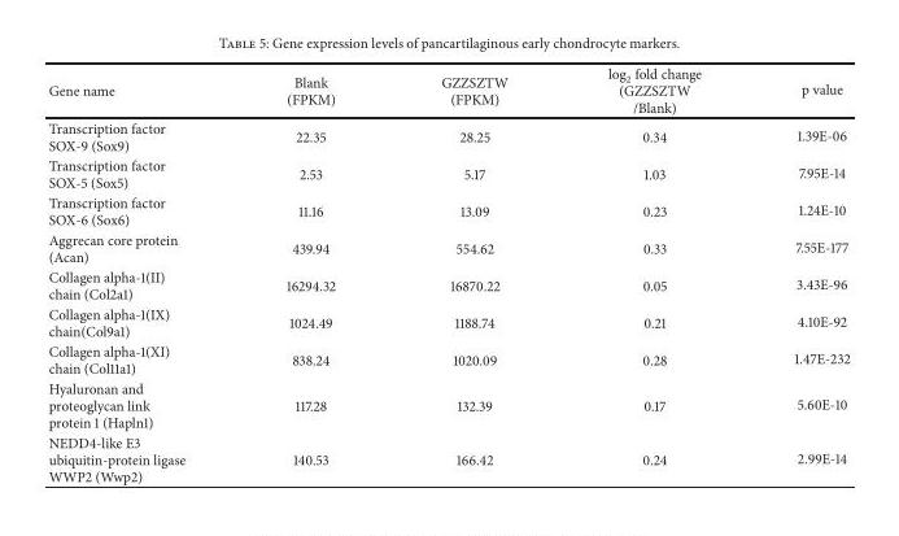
<table><thead><tr><td>Gene name</td><td>Blank (FPKM)</td><td>GZZSZTW (FPKM)</td><td>log<sub>2</sub> fold change (GZZSZTW /Blank)</td><td>p value</td></tr></thead><tbody><tr><td>Transcription factor SOX-9 (Sox9)</td><td>22.35</td><td>28.25</td><td>0.34</td><td>1.39E-06</td></tr><tr><td>Transcription factor SOX-5 (Sox5)</td><td>2.53</td><td>5.17</td><td>1.03</td><td>7.95E-14</td></tr><tr><td>Transcription factor SOX-6 (Sox6)</td><td>11.16</td><td>13.09</td><td>0.23</td><td>1.24E-10</td></tr><tr><td>Aggrecan core protein (Acan)</td><td>439.94</td><td>554.62</td><td>0.33</td><td>7.55E-177</td></tr><tr><td>Collagen alpha-1(II) chain (Col2a1)</td><td>16294.32</td><td>16870.22</td><td>0.05</td><td>3.43E-96</td></tr><tr><td>Collagen alpha-1(IX) chain(Col9a1)</td><td>1024.49</td><td>1188.74</td><td>0.21</td><td>4.10E-92</td></tr><tr><td>Collagen alpha-1(XI) chain (Col11a1)</td><td>838.24</td><td>1020.09</td><td>0.28</td><td>1.47E-232</td></tr><tr><td>Hyaluronan and proteoglycan link protein 1 (Hapln1)</td><td>117.28</td><td>132.39</td><td>0.17</td><td>5.60E-10</td></tr><tr><td>NEDD4-like E3 ubiquitin-protein ligase WWP2 (Wwp2)</td><td>140.53</td><td>166.42</td><td>0.24</td><td>2.99E-14</td></tr></tbody></table>